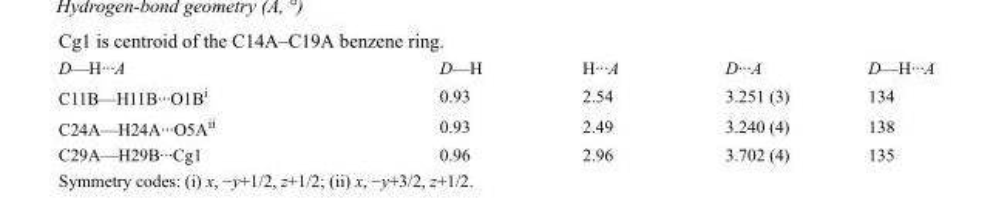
<table><tbody><tr><td>D—H···A</td><td>D—H</td><td>H···A</td><td>D···A</td><td>D—H···A</td></tr><tr><td>C11B—H11B···O1B<sup>i</sup></td><td>0.93</td><td>2.54</td><td>3.251 (3)</td><td>134</td></tr><tr><td>C24A—H24A···O5A<sup>ii</sup></td><td>0.93</td><td>2.49</td><td>3.240 (4)</td><td>138</td></tr><tr><td>C29A—H29B···Cg1</td><td>0.96</td><td>2.96</td><td>3.702 (4)</td><td>135</td></tr></tbody></table>